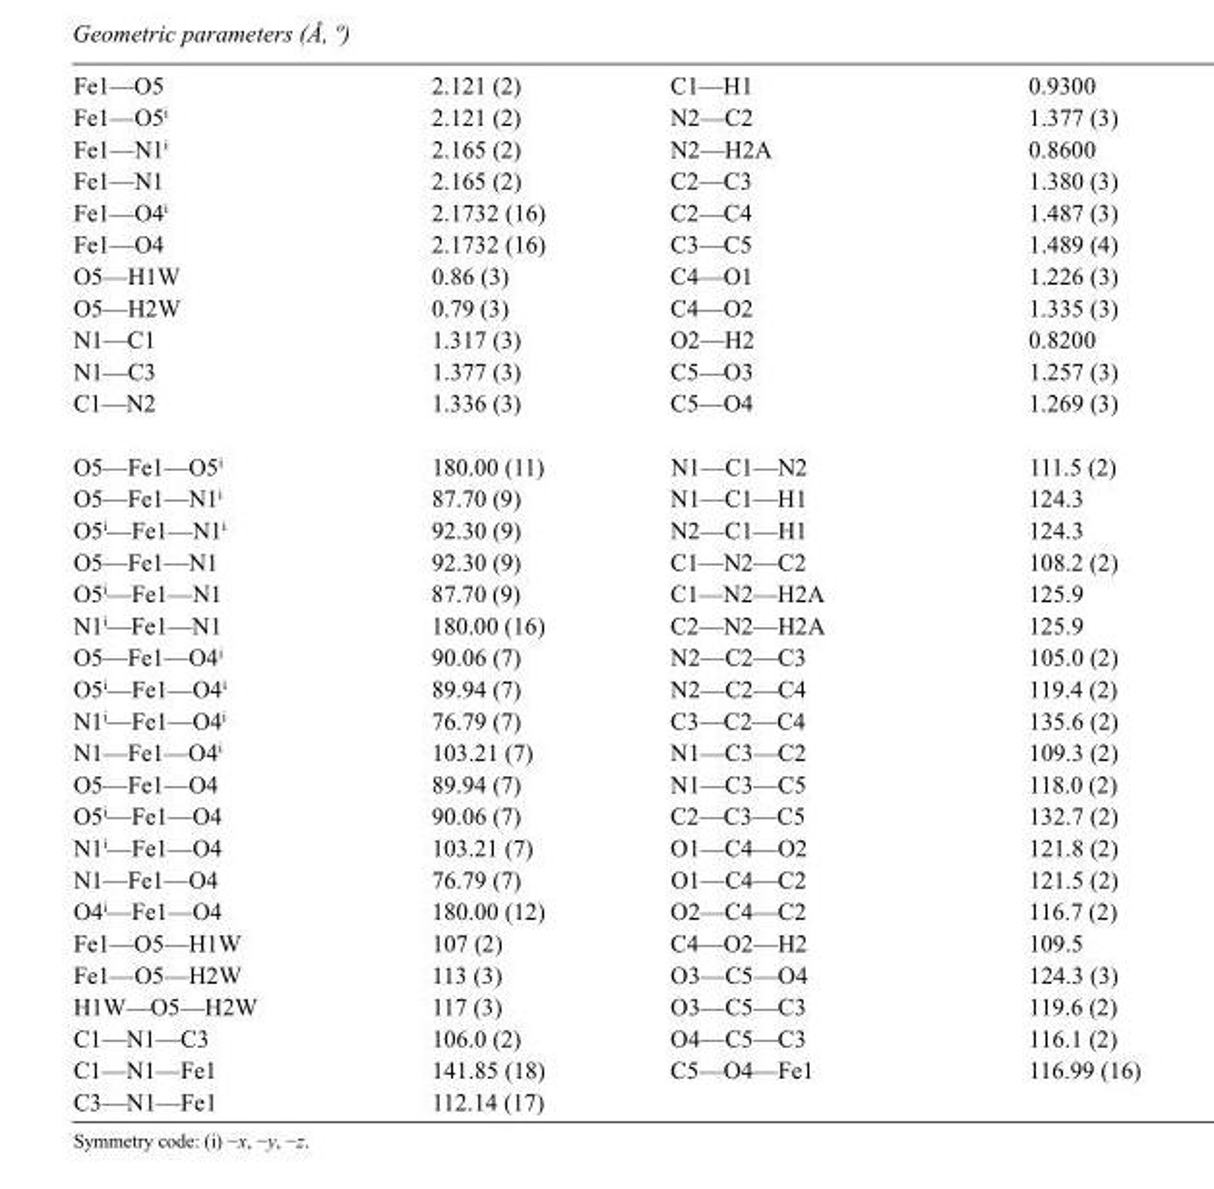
<table><tbody><tr><td>Fe1—O5</td><td>2.121 (2)</td><td>C1—H1</td><td>0.9300</td></tr><tr><td>Fe1—O5<sup>i</sup></td><td>2.121 (2)</td><td>N2—C2</td><td>1.377 (3)</td></tr><tr><td>Fe1—N1<sup>i</sup></td><td>2.165 (2)</td><td>N2—H2A</td><td>0.8600</td></tr><tr><td>Fe1—N1</td><td>2.165 (2)</td><td>C2—C3</td><td>1.380 (3)</td></tr><tr><td>Fe1—O4<sup>i</sup></td><td>2.1732 (16)</td><td>C2—C4</td><td>1.487 (3)</td></tr><tr><td>Fe1—O4</td><td>2.1732 (16)</td><td>C3—C5</td><td>1.489 (4)</td></tr><tr><td>O5—H1W</td><td>0.86 (3)</td><td>C4—O1</td><td>1.226 (3)</td></tr><tr><td>O5—H2W</td><td>0.79 (3)</td><td>C4—O2</td><td>1.335 (3)</td></tr><tr><td>N1—C1</td><td>1.317 (3)</td><td>O2—H2</td><td>0.8200</td></tr><tr><td>N1—C3</td><td>1.377 (3)</td><td>C5—O3</td><td>1.257 (3)</td></tr><tr><td>C1—N2</td><td>1.336 (3)</td><td>C5—O4</td><td>1.269 (3)</td></tr><tr><td>O5—Fe1—O5<sup>i</sup></td><td>180.00 (11)</td><td>N1—C1—N2</td><td>111.5 (2)</td></tr><tr><td>O5—Fe1—N1<sup>i</sup></td><td>87.70 (9)</td><td>N1—C1—H1</td><td>124.3</td></tr><tr><td>O5<sup>i</sup>—Fe1—N1<sup>i</sup></td><td>92.30 (9)</td><td>N2—C1—H1</td><td>124.3</td></tr><tr><td>O5—Fe1—N1</td><td>92.30 (9)</td><td>C1—N2—C2</td><td>108.2 (2)</td></tr><tr><td>O5<sup>i</sup>—Fe1—N1</td><td>87.70 (9)</td><td>C1—N2—H2A</td><td>125.9</td></tr><tr><td>N1<sup>i</sup>—Fe1—N1</td><td>180.00 (16)</td><td>C2—N2—H2A</td><td>125.9</td></tr><tr><td>O5—Fe1—O4<sup>i</sup></td><td>90.06 (7)</td><td>N2—C2—C3</td><td>105.0 (2)</td></tr><tr><td>O5<sup>i</sup>—Fe1—O4<sup>i</sup></td><td>89.94 (7)</td><td>N2—C2—C4</td><td>119.4 (2)</td></tr><tr><td>N1<sup>i</sup>—Fe1—O4<sup>i</sup></td><td>76.79 (7)</td><td>C3—C2—C4</td><td>135.6 (2)</td></tr><tr><td>N1—Fe1—O4<sup>i</sup></td><td>103.21 (7)</td><td>N1—C3—C2</td><td>109.3 (2)</td></tr><tr><td>O5—Fe1—O4</td><td>89.94 (7)</td><td>N1—C3—C5</td><td>118.0 (2)</td></tr><tr><td>O5<sup>i</sup>—Fe1—O4</td><td>90.06 (7)</td><td>C2—C3—C5</td><td>132.7 (2)</td></tr><tr><td>N1<sup>i</sup>—Fe1—O4</td><td>103.21 (7)</td><td>O1—C4—O2</td><td>121.8 (2)</td></tr><tr><td>N1—Fe1—O4</td><td>76.79 (7)</td><td>O1—C4—C2</td><td>121.5 (2)</td></tr><tr><td>O4<sup>i</sup>—Fe1—O4</td><td>180.00 (12)</td><td>O2—C4—C2</td><td>116.7 (2)</td></tr><tr><td>Fe1—O5—H1W</td><td>107 (2)</td><td>C4—O2—H2</td><td>109.5</td></tr><tr><td>Fe1—O5—H2W</td><td>113 (3)</td><td>O3—C5—O4</td><td>124.3 (3)</td></tr><tr><td>H1W—O5—H2W</td><td>117 (3)</td><td>O3—C5—C3</td><td>119.6 (2)</td></tr><tr><td>C1—N1—C3</td><td>106.0 (2)</td><td>O4—C5—C3</td><td>116.1 (2)</td></tr><tr><td>C1—N1—Fe1</td><td>141.85 (18)</td><td>C5—O4—Fe1</td><td>116.99 (16)</td></tr><tr><td>C3—N1—Fe1</td><td>112.14 (17)</td><td></td><td></td></tr></tbody></table>